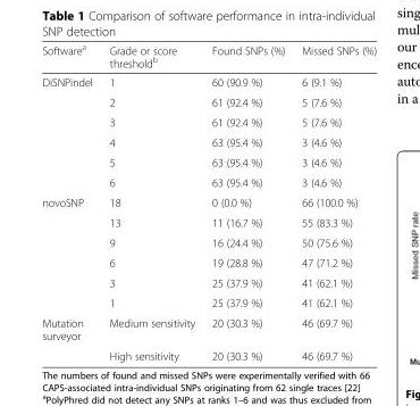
<table><thead><tr><td>Software<sup>a</sup></td><td>Grade or score threshold<sup>b</sup></td><td>Found SNPs (%)</td><td>Missed SNPs (%)</td></tr></thead><tbody><tr><td rowspan="6">DiSNPindel</td><td>1</td><td>60 (90.9 %)</td><td>6 (9.1 %)</td></tr><tr><td>2</td><td>61 (92.4 %)</td><td>5 (7.6 %)</td></tr><tr><td>3</td><td>61 (92.4 %)</td><td>5 (7.6 %)</td></tr><tr><td>4</td><td>63 (95.4 %)</td><td>3 (4.6 %)</td></tr><tr><td>5</td><td>63 (95.4 %)</td><td>3 (4.6 %)</td></tr><tr><td>6</td><td>63 (95.4 %)</td><td>3 (4.6 %)</td></tr><tr><td rowspan="6">novoSNP</td><td>18</td><td>0 (0.0 %)</td><td>66 (100.0 %)</td></tr><tr><td>13</td><td>11 (16.7 %)</td><td>55 (83.3 %)</td></tr><tr><td>9</td><td>16 (24.4 %)</td><td>50 (75.6 %)</td></tr><tr><td>6</td><td>19 (28.8 %)</td><td>47 (71.2 %)</td></tr><tr><td>3</td><td>25 (37.9 %)</td><td>41 (62.1 %)</td></tr><tr><td>1</td><td>25 (37.9 %)</td><td>41 (62.1 %)</td></tr><tr><td rowspan="2">Mutation surveyor</td><td>Medium sensitivity</td><td>20 (30.3 %)</td><td>46 (69.7 %)</td></tr><tr><td>High sensitivity</td><td>20 (30.3 %)</td><td>46 (69.7 %)</td></tr></tbody></table>